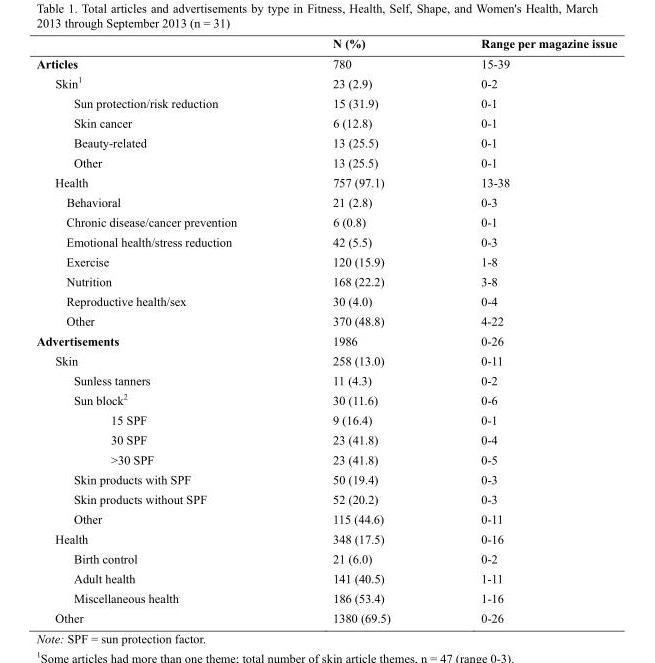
<table><thead><tr><td></td><td>N (%)</td><td>Range per magazine issue</td></tr></thead><tbody><tr><td>Articles</td><td>780</td><td>15-39</td></tr><tr><td>Skin<sup>1</sup></td><td>23 (2.9)</td><td>0-2</td></tr><tr><td>Sun protection/risk reduction</td><td>15 (31.9)</td><td>0-1</td></tr><tr><td>Skin cancer</td><td>6 (12.8)</td><td>0-1</td></tr><tr><td>Beauty-related</td><td>13 (25.5)</td><td>0-1</td></tr><tr><td>Other</td><td>13 (25.5)</td><td>0-1</td></tr><tr><td>Health</td><td>757 (97.1)</td><td>13-38</td></tr><tr><td>Behavioral</td><td>21 (2.8)</td><td>0-3</td></tr><tr><td>Chronic disease/cancer prevention</td><td>6 (0.8)</td><td>0-1</td></tr><tr><td>Emotional health/stress reduction</td><td>42 (5.5)</td><td>0-3</td></tr><tr><td>Exercise</td><td>120 (15.9)</td><td>1-8</td></tr><tr><td>Nutrition</td><td>168 (22.2)</td><td>3-8</td></tr><tr><td>Reproductive health/sex</td><td>30 (4.0)</td><td>0-4</td></tr><tr><td>Other</td><td>370 (48.8)</td><td>4-22</td></tr><tr><td>Advertisements</td><td>1986</td><td>0-26</td></tr><tr><td>Skin</td><td>258 (13.0)</td><td>0-11</td></tr><tr><td>Sunless tanners</td><td>11 (4.3)</td><td>0-2</td></tr><tr><td>Sun block<sup>2</sup></td><td>30 (11.6)</td><td>0-6</td></tr><tr><td>15 SPF</td><td>9 (16.4)</td><td>0-1</td></tr><tr><td>30 SPF</td><td>23 (41.8)</td><td>0-4</td></tr><tr><td>&gt;30 SPF</td><td>23 (41.8)</td><td>0-5</td></tr><tr><td>Skin products with SPF</td><td>50 (19.4)</td><td>0-3</td></tr><tr><td>Skin products without SPF</td><td>52 (20.2)</td><td>0-3</td></tr><tr><td>Other</td><td>115 (44.6)</td><td>0-11</td></tr><tr><td>Health</td><td>348 (17.5)</td><td>0-16</td></tr><tr><td>Birth control</td><td>21 (6.0)</td><td>0-2</td></tr><tr><td>Adult health</td><td>141 (40.5)</td><td>1-11</td></tr><tr><td>Miscellaneous health</td><td>186 (53.4)</td><td>1-16</td></tr><tr><td>Other</td><td>1380 (69.5)</td><td>0-26</td></tr></tbody></table>